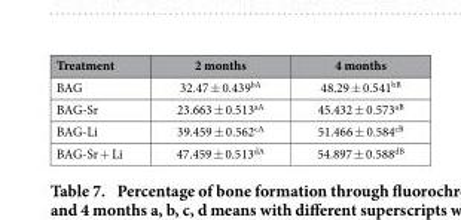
<table><thead><tr><td>Treatment</td><td>2 months</td><td>4 months</td></tr></thead><tbody><tr><td>BAG</td><td>32.47 ± 0.439<sup>bA</sup></td><td>48.29 ± 0.541<sup>bB</sup></td></tr><tr><td>BAG-Sr</td><td>23.663 ± 0.513<sup>aA</sup></td><td>45.432 ± 0.573<sup>aB</sup></td></tr><tr><td>BAG-Li</td><td>39.459 ± 0.562<sup>cA</sup></td><td>51.466 ± 0.584<sup>cB</sup></td></tr><tr><td>BAG-Sr + Li</td><td>47.459 ± 0.513<sup>dA</sup></td><td>54.897 ± 0.588<sup>dB</sup></td></tr></tbody></table>